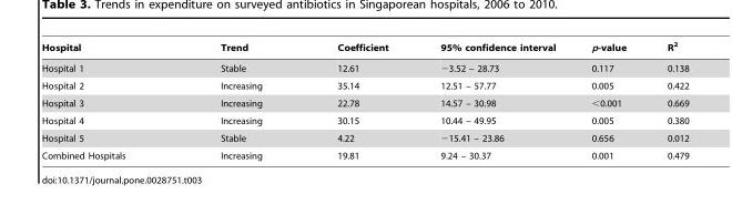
<table><thead><tr><td>Hospital</td><td>Trend</td><td>Coefficient</td><td>95% confidence interval</td><td>p-value</td><td>R<sup>2</sup></td></tr></thead><tbody><tr><td>Hospital 1</td><td>Stable</td><td>12.61</td><td>−3.52 – 28.73</td><td>0.117</td><td>0.138</td></tr><tr><td>Hospital 2</td><td>Increasing</td><td>35.14</td><td>12.51 – 57.77</td><td>0.005</td><td>0.422</td></tr><tr><td>Hospital 3</td><td>Increasing</td><td>22.78</td><td>14.57 – 30.98</td><td>&lt;0.001</td><td>0.669</td></tr><tr><td>Hospital 4</td><td>Increasing</td><td>30.15</td><td>10.44 – 49.95</td><td>0.005</td><td>0.380</td></tr><tr><td>Hospital 5</td><td>Stable</td><td>4.22</td><td>−15.41 – 23.86</td><td>0.656</td><td>0.012</td></tr><tr><td>Combined Hospitals</td><td>Increasing</td><td>19.81</td><td>9.24 – 30.37</td><td>0.001</td><td>0.479</td></tr></tbody></table>